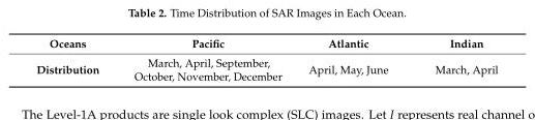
<table><thead><tr><td>Oceans</td><td>Pacific</td><td>Atlantic</td><td>Indian</td></tr></thead><tbody><tr><td>Distribution</td><td>March, April, September, October, November, December</td><td>April, May, June</td><td>March, April</td></tr></tbody></table>